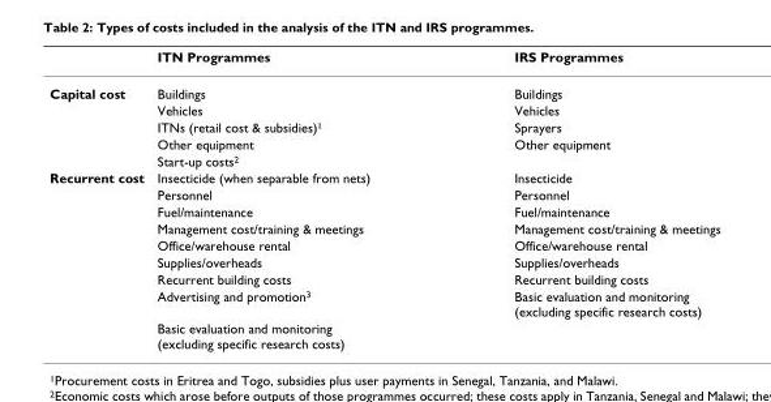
<table><thead><tr><td></td><td>ITN Programmes</td><td>IRS Programmes</td></tr></thead><tbody><tr><td rowspan="5">Capital cost</td><td>Buildings</td><td>Buildings</td></tr><tr><td>Vehicles</td><td>Vehicles</td></tr><tr><td>ITNs (retail cost &amp; subsidies)<sup>1</sup></td><td>Sprayers</td></tr><tr><td>Other equipment</td><td>Other equipment</td></tr><tr><td>Start-up costs<sup>2</sup></td><td></td></tr><tr><td rowspan="9">Recurrent cost</td><td>Insecticide (when separable from nets)</td><td>Insecticide</td></tr><tr><td>Personnel</td><td>Personnel</td></tr><tr><td>Fuel/maintenance</td><td>Fuel/maintenance</td></tr><tr><td>Management cost/training &amp; meetings</td><td>Management cost/training &amp; meetings</td></tr><tr><td>Office/warehouse rental</td><td>Office/warehouse rental</td></tr><tr><td>Supplies/overheads</td><td>Supplies/overheads</td></tr><tr><td>Recurrent building costs</td><td>Recurrent building costs</td></tr><tr><td>Advertising and promotion<sup>3</sup></td><td>Basic evaluation and monitoring (excluding specific research costs)</td></tr><tr><td>Basic evaluation and monitoring (excluding specific research costs)</td><td></td></tr></tbody></table>